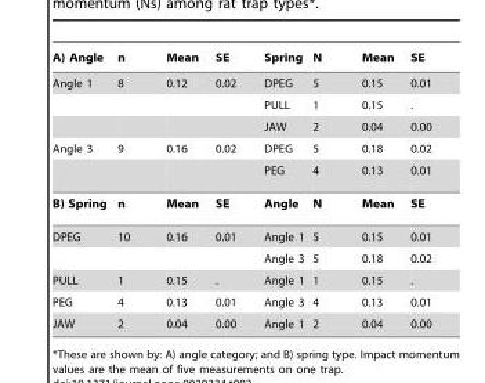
<table><thead><tr><td>A) Angle</td><td>n</td><td>Mean</td><td>SE</td><td>Spring</td><td>N</td><td>Mean</td><td>SE</td></tr></thead><tbody><tr><td rowspan="3">Angle 1</td><td>8</td><td>0.12</td><td>0.02</td><td>DPEG</td><td>5</td><td>0.15</td><td>0.01</td></tr><tr><td></td><td></td><td></td><td>PULL</td><td>1</td><td>0.15</td><td>.</td></tr><tr><td></td><td></td><td></td><td>JAW</td><td>2</td><td>0.04</td><td>0.00</td></tr><tr><td rowspan="2">Angle 3</td><td>9</td><td>0.16</td><td>0.02</td><td>DPEG</td><td>5</td><td>0.18</td><td>0.02</td></tr><tr><td></td><td></td><td></td><td>PEG</td><td>4</td><td>0.13</td><td>0.01</td></tr><tr><td>B) Spring</td><td>n</td><td>Mean</td><td>SE</td><td>Angle</td><td>N</td><td>Mean</td><td>SE</td></tr><tr><td rowspan="2">DPEG</td><td>10</td><td>0.16</td><td>0.01</td><td>Angle 1</td><td>5</td><td>0.15</td><td>0.01</td></tr><tr><td></td><td></td><td></td><td>Angle 3</td><td>5</td><td>0.18</td><td>0.02</td></tr><tr><td>PULL</td><td>1</td><td>0.15</td><td>.</td><td>Angle 1</td><td>1</td><td>0.15</td><td>.</td></tr><tr><td>PEG</td><td>4</td><td>0.13</td><td>0.01</td><td>Angle 3</td><td>4</td><td>0.13</td><td>0.01</td></tr><tr><td>JAW</td><td>2</td><td>0.04</td><td>0.00</td><td>Angle 1</td><td>2</td><td>0.04</td><td>0.00</td></tr></tbody></table>